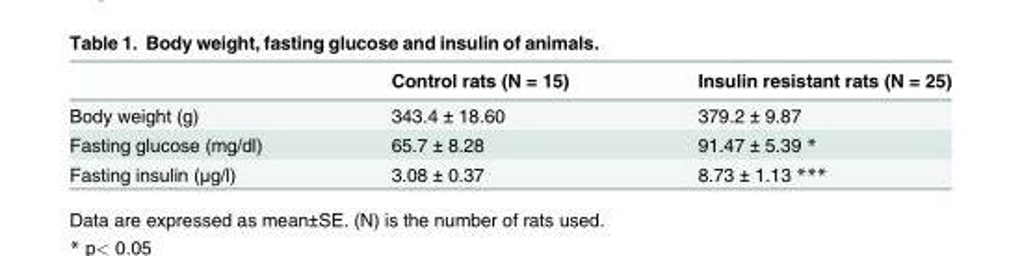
<table><thead><tr><td></td><td>Control rats (N = 15)</td><td>Insulin resistant rats (N = 25)</td></tr></thead><tbody><tr><td>Body weight (g)</td><td>343.4 ± 18.60</td><td>379.2 ± 9.87</td></tr><tr><td>Fasting glucose (mg/dl)</td><td>65.7 ± 8.28</td><td>91.47 ± 5.39 *</td></tr><tr><td>Fasting insulin (μg/l)</td><td>3.08 ± 0.37</td><td>8.73 ± 1.13 ***</td></tr></tbody></table>